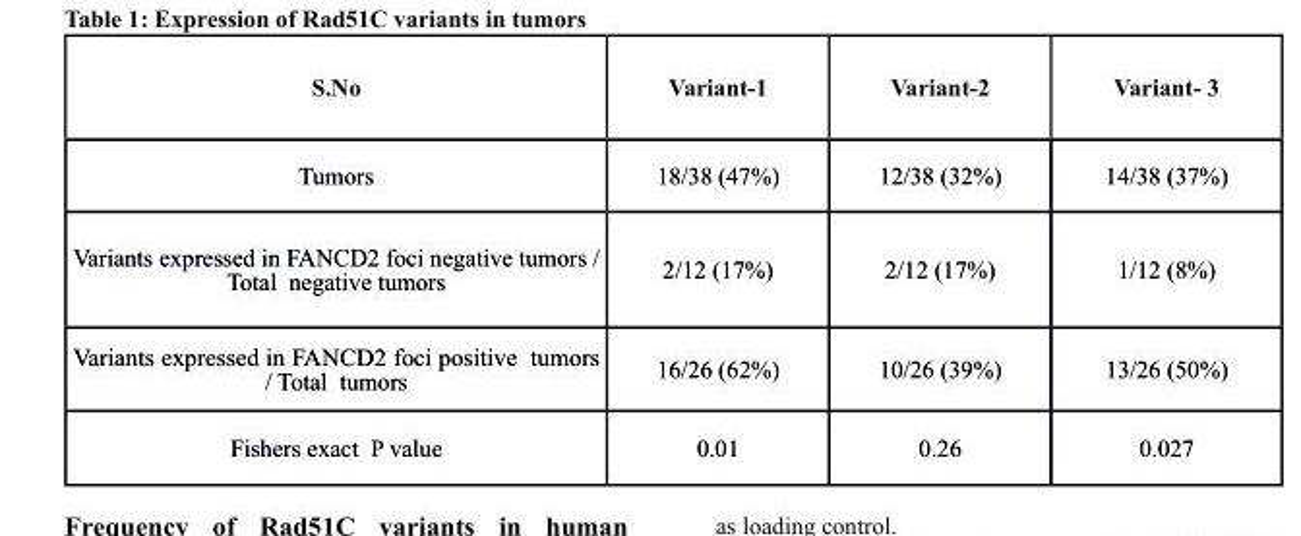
<table><thead><tr><td>S.No</td><td>Variant-1</td><td>Variant-2</td><td>Variant- 3</td></tr></thead><tbody><tr><td>Tumors</td><td>18/38 (47%)</td><td>12/38 (32%)</td><td>14/38 (37%)</td></tr><tr><td>Variants expressed in FANCD2 foci negative tumors / Total negative tumors</td><td>2/12 (17%)</td><td>2/12 (17%)</td><td>1/12 (8%)</td></tr><tr><td>Variants expressed in FANCD2 foci positive tumors / Total tumors</td><td>16/26 (62%)</td><td>10/26 (39%)</td><td>13/26 (50%)</td></tr><tr><td>Fishers exact P value</td><td>0.01</td><td>0.26</td><td>0.027</td></tr></tbody></table>